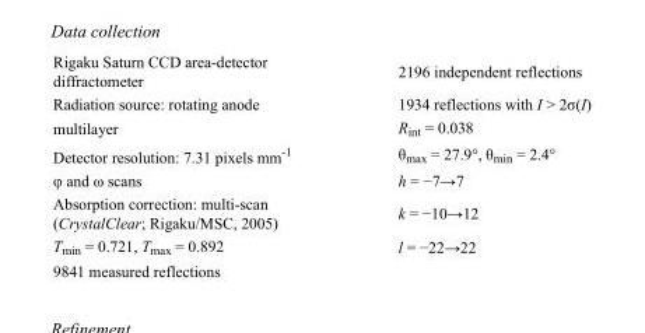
<table><tbody><tr><td>Rigaku Saturn CCD area-detector diffractometer</td><td>2196 independent reflections</td></tr><tr><td>Radiation source: rotating anode</td><td>1934 reflections with I &gt; 2σ(I)</td></tr><tr><td>multilayer</td><td>R<sub>int</sub> = 0.038</td></tr><tr><td>Detector resolution: 7.31 pixels mm<sup>-1</sup></td><td>θ<sub>max</sub> = 27.9°, θ<sub>min</sub> = 2.4°</td></tr><tr><td>φ and ω scans</td><td>h = −7→7</td></tr><tr><td>Absorption correction: multi-scan (CrystalClear; Rigaku/MSC, 2005)</td><td>k = −10→12</td></tr><tr><td>T<sub>min</sub> = 0.721, T<sub>max</sub> = 0.892</td><td>l = −22→22</td></tr><tr><td>9841 measured reflections</td><td></td></tr></tbody></table>